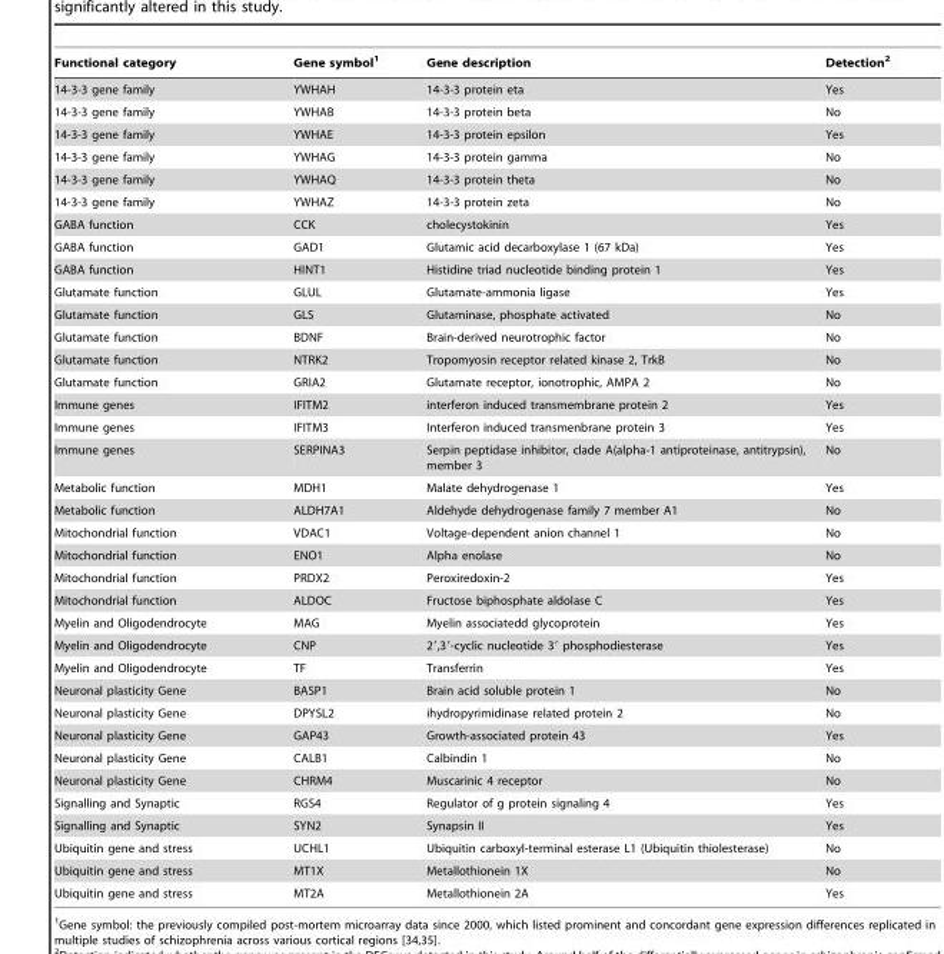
<table><thead><tr><td>Functional category</td><td>Gene symbol<sup>1</sup></td><td>Gene description</td><td>Detection<sup>2</sup></td></tr></thead><tbody><tr><td>14-3-3 gene family</td><td>YWHAH</td><td>14-3-3 protein eta</td><td>Yes</td></tr><tr><td>14-3-3 gene family</td><td>YWHAB</td><td>14-3-3 protein beta</td><td>No</td></tr><tr><td>14-3-3 gene family</td><td>YWHAE</td><td>14-3-3 protein epsilon</td><td>Yes</td></tr><tr><td>14-3-3 gene family</td><td>YWHAG</td><td>14-3-3 protein gamma</td><td>No</td></tr><tr><td>14-3-3 gene family</td><td>YWHAQ</td><td>14-3-3 protein theta</td><td>No</td></tr><tr><td>14-3-3 gene family</td><td>YWHAZ</td><td>14-3-3 protein zeta</td><td>No</td></tr><tr><td>GABA function</td><td>CCK</td><td>cholecystokinin</td><td>Yes</td></tr><tr><td>GABA function</td><td>GAD1</td><td>Glutamic acid decarboxylase 1 (67 kDa)</td><td>Yes</td></tr><tr><td>GABA function</td><td>HINT1</td><td>Histidine triad nucleotide binding protein 1</td><td>Yes</td></tr><tr><td>Glutamate function</td><td>GLUL</td><td>Glutamate-ammonia ligase</td><td>Yes</td></tr><tr><td>Glutamate function</td><td>GLS</td><td>Glutaminase, phosphate activated</td><td>No</td></tr><tr><td>Glutamate function</td><td>BDNF</td><td>Brain-derived neurotrophic factor</td><td>No</td></tr><tr><td>Glutamate function</td><td>NTRK2</td><td>Tropomyosin receptor related kinase 2, TrkB</td><td>No</td></tr><tr><td>Glutamate function</td><td>GRIA2</td><td>Glutamate receptor, ionotrophic, AMPA 2</td><td>No</td></tr><tr><td>Immune genes</td><td>IFITM2</td><td>interferon induced transmembrane protein 2</td><td>Yes</td></tr><tr><td>Immune genes</td><td>IFITM3</td><td>Interferon induced transmenbrane protein 3</td><td>Yes</td></tr><tr><td>Immune genes</td><td>SERPINA3</td><td>Serpin peptidase inhibitor, clade A(alpha-1 antiproteinase, antitrypsin), member 3</td><td>No</td></tr><tr><td>Metabolic function</td><td>MDH1</td><td>Malate dehydrogenase 1</td><td>Yes</td></tr><tr><td>Metabolic function</td><td>ALDH7A1</td><td>Aldehyde dehydrogenase family 7 member A1</td><td>No</td></tr><tr><td>Mitochondrial function</td><td>VDAC1</td><td>Voltage-dependent anion channel 1</td><td>No</td></tr><tr><td>Mitochondrial function</td><td>ENO1</td><td>Alpha enolase</td><td>No</td></tr><tr><td>Mitochondrial function</td><td>PRDX2</td><td>Peroxiredoxin-2</td><td>Yes</td></tr><tr><td>Mitochondrial function</td><td>ALDOC</td><td>Fructose biphosphate aldolase C</td><td>Yes</td></tr><tr><td>Myelin and Oligodendrocyte</td><td>MAG</td><td>Myelin associatedd glycoprotein</td><td>Yes</td></tr><tr><td>Myelin and Oligodendrocyte</td><td>CNP</td><td>2′,3′-cyclic nucleotide 3′ phosphodiesterase</td><td>Yes</td></tr><tr><td>Myelin and Oligodendrocyte</td><td>TF</td><td>Transferrin</td><td>Yes</td></tr><tr><td>Neuronal plasticity Gene</td><td>BASP1</td><td>Brain acid soluble protein 1</td><td>No</td></tr><tr><td>Neuronal plasticity Gene</td><td>DPYSL2</td><td>ihydropyrimidinase related protein 2</td><td>No</td></tr><tr><td>Neuronal plasticity Gene</td><td>GAP43</td><td>Growth-associated protein 43</td><td>Yes</td></tr><tr><td>Neuronal plasticity Gene</td><td>CALB1</td><td>Calbindin 1</td><td>No</td></tr><tr><td>Neuronal plasticity Gene</td><td>CHRM4</td><td>Muscarinic 4 receptor</td><td>No</td></tr><tr><td>Signalling and Synaptic</td><td>RGS4</td><td>Regulator of g protein signaling 4</td><td>Yes</td></tr><tr><td>Signalling and Synaptic</td><td>SYN2</td><td>Synapsin II</td><td>Yes</td></tr><tr><td>Ubiquitin gene and stress</td><td>UCHL1</td><td>Ubiquitin carboxyl-terminal esterase L1 (Ubiquitin thiolesterase)</td><td>No</td></tr><tr><td>Ubiquitin gene and stress</td><td>MT1X</td><td>Metallothionein 1X</td><td>No</td></tr><tr><td>Ubiquitin gene and stress</td><td>MT2A</td><td>Metallothionein 2A</td><td>Yes</td></tr></tbody></table>